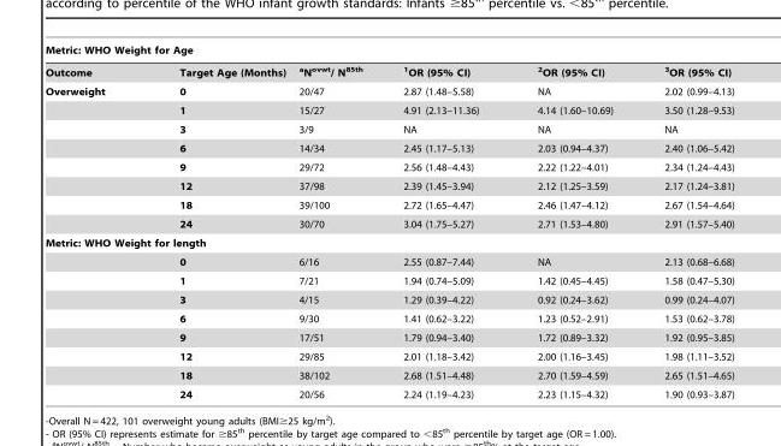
<table><thead><tr><td colspan="6">Metric: WHO Weight for Age</td></tr><tr><td>Outcome</td><td>Target Age (Months)</td><td><sup>a</sup>N<sup>ovwt</sup>/ N<sup>85th</sup></td><td><sup>1</sup>OR (95% CI)</td><td><sup>2</sup>OR (95% CI)</td><td><sup>3</sup>OR (95% CI)</td></tr></thead><tbody><tr><td rowspan="8">Overweight</td><td>0</td><td>20/47</td><td>2.87 (1.48–5.58)</td><td>NA</td><td>2.02 (0.99–4.13)</td></tr><tr><td>1</td><td>15/27</td><td>4.91 (2.13–11.36)</td><td>4.14 (1.60–10.69)</td><td>3.50 (1.28–9.53)</td></tr><tr><td>3</td><td>3/9</td><td>NA</td><td>NA</td><td>NA</td></tr><tr><td>6</td><td>14/34</td><td>2.45 (1.17–5.13)</td><td>2.03 (0.94–4.37)</td><td>2.40 (1.06–5.42)</td></tr><tr><td>9</td><td>29/72</td><td>2.56 (1.48–4.43)</td><td>2.22 (1.22–4.01)</td><td>2.34 (1.24–4.43)</td></tr><tr><td>12</td><td>37/98</td><td>2.39 (1.45–3.94)</td><td>2.12 (1.25–3.59)</td><td>2.17 (1.24–3.81)</td></tr><tr><td>18</td><td>39/100</td><td>2.72 (1.65–4.47)</td><td>2.46 (1.47–4.12)</td><td>2.67 (1.54–4.64)</td></tr><tr><td>24</td><td>30/70</td><td>3.04 (1.75–5.27)</td><td>2.71 (1.53–4.80)</td><td>2.91 (1.57–5.40)</td></tr><tr><td colspan="6">Metric: WHO Weight for length</td></tr><tr><td></td><td>0</td><td>6/16</td><td>2.55 (0.87–7.44)</td><td>NA</td><td>2.13 (0.68–6.68)</td></tr><tr><td></td><td>1</td><td>7/21</td><td>1.94 (0.74–5.09)</td><td>1.42 (0.45–4.45)</td><td>1.58 (0.47–5.30)</td></tr><tr><td></td><td>3</td><td>4/15</td><td>1.29 (0.39–4.22)</td><td>0.92 (0.24–3.62)</td><td>0.99 (0.24–4.07)</td></tr><tr><td></td><td>6</td><td>9/30</td><td>1.41 (0.62–3.22)</td><td>1.23 (0.52–2.91)</td><td>1.53 (0.62–3.78)</td></tr><tr><td></td><td>9</td><td>17/51</td><td>1.79 (0.94–3.40)</td><td>1.72 (0.89–3.32)</td><td>1.92 (0.95–3.85)</td></tr><tr><td></td><td>12</td><td>29/85</td><td>2.01 (1.18–3.42)</td><td>2.00 (1.16–3.45)</td><td>1.98 (1.11–3.52)</td></tr><tr><td></td><td>18</td><td>38/102</td><td>2.68 (1.51–4.48)</td><td>2.70 (1.59–4.59)</td><td>2.65 (1.51–4.65)</td></tr><tr><td></td><td>24</td><td>20/56</td><td>2.24 (1.19–4.23)</td><td>2.23 (1.15–4.32)</td><td>1.90 (0.93–3.87)</td></tr></tbody></table>